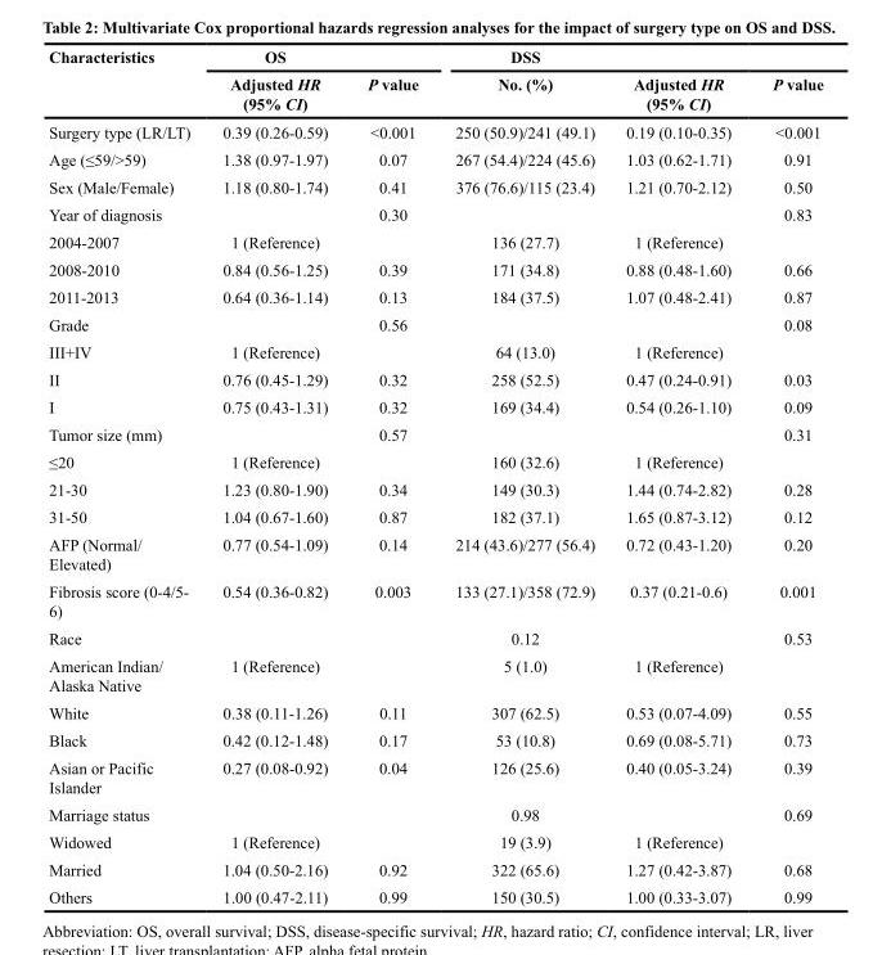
<table><thead><tr><td rowspan="2">Characteristics</td><td rowspan="2">OS Adjusted HR (95% CI)</td><td rowspan="2">P value</td><td rowspan="2">DSS No. (%)</td><td rowspan="2">Adjusted HR (95% CI)</td><td rowspan="2">P value</td></tr><tr></tr></thead><tbody><tr><td>Surgery type (LR/LT)</td><td>0.39 (0.26-0.59)</td><td>&lt;0.001</td><td>250 (50.9)/241 (49.1)</td><td>0.19 (0.10-0.35)</td><td>&lt;0.001</td></tr><tr><td>Age (≤59/&gt;59)</td><td>1.38 (0.97-1.97)</td><td>0.07</td><td>267 (54.4)/224 (45.6)</td><td>1.03 (0.62-1.71)</td><td>0.91</td></tr><tr><td>Sex (Male/Female)</td><td>1.18 (0.80-1.74)</td><td>0.41</td><td>376 (76.6)/115 (23.4)</td><td>1.21 (0.70-2.12)</td><td>0.50</td></tr><tr><td>Year of diagnosis</td><td></td><td>0.30</td><td></td><td></td><td>0.83</td></tr><tr><td>2004-2007</td><td>1 (Reference)</td><td></td><td>136 (27.7)</td><td>1 (Reference)</td><td></td></tr><tr><td>2008-2010</td><td>0.84 (0.56-1.25)</td><td>0.39</td><td>171 (34.8)</td><td>0.88 (0.48-1.60)</td><td>0.66</td></tr><tr><td>2011-2013</td><td>0.64 (0.36-1.14)</td><td>0.13</td><td>184 (37.5)</td><td>1.07 (0.48-2.41)</td><td>0.87</td></tr><tr><td>Grade</td><td></td><td>0.56</td><td></td><td></td><td>0.08</td></tr><tr><td>III+IV</td><td>1 (Reference)</td><td></td><td>64 (13.0)</td><td>1 (Reference)</td><td></td></tr><tr><td>II</td><td>0.76 (0.45-1.29)</td><td>0.32</td><td>258 (52.5)</td><td>0.47 (0.24-0.91)</td><td>0.03</td></tr><tr><td>I</td><td>0.75 (0.43-1.31)</td><td>0.32</td><td>169 (34.4)</td><td>0.54 (0.26-1.10)</td><td>0.09</td></tr><tr><td>Tumor size (mm)</td><td></td><td>0.57</td><td></td><td></td><td>0.31</td></tr><tr><td>≤20</td><td>1 (Reference)</td><td></td><td>160 (32.6)</td><td>1 (Reference)</td><td></td></tr><tr><td>21-30</td><td>1.23 (0.80-1.90)</td><td>0.34</td><td>149 (30.3)</td><td>1.44 (0.74-2.82)</td><td>0.28</td></tr><tr><td>31-50</td><td>1.04 (0.67-1.60)</td><td>0.87</td><td>182 (37.1)</td><td>1.65 (0.87-3.12)</td><td>0.12</td></tr><tr><td>AFP (Normal/ Elevated)</td><td>0.77 (0.54-1.09)</td><td>0.14</td><td>214 (43.6)/277 (56.4)</td><td>0.72 (0.43-1.20)</td><td>0.20</td></tr><tr><td>Fibrosis score (0-4/5- 6)</td><td>0.54 (0.36-0.82)</td><td>0.003</td><td>133 (27.1)/358 (72.9)</td><td>0.37 (0.21-0.6)</td><td>0.001</td></tr><tr><td>Race</td><td></td><td></td><td>0.12</td><td></td><td>0.53</td></tr><tr><td>American Indian/ Alaska Native</td><td>1 (Reference)</td><td></td><td>5 (1.0)</td><td>1 (Reference)</td><td></td></tr><tr><td>White</td><td>0.38 (0.11-1.26)</td><td>0.11</td><td>307 (62.5)</td><td>0.53 (0.07-4.09)</td><td>0.55</td></tr><tr><td>Black</td><td>0.42 (0.12-1.48)</td><td>0.17</td><td>53 (10.8)</td><td>0.69 (0.08-5.71)</td><td>0.73</td></tr><tr><td>Asian or Pacific Islander</td><td>0.27 (0.08-0.92)</td><td>0.04</td><td>126 (25.6)</td><td>0.40 (0.05-3.24)</td><td>0.39</td></tr><tr><td>Marriage status</td><td></td><td></td><td>0.98</td><td></td><td>0.69</td></tr><tr><td>Widowed</td><td>1 (Reference)</td><td></td><td>19 (3.9)</td><td>1 (Reference)</td><td></td></tr><tr><td>Married</td><td>1.04 (0.50-2.16)</td><td>0.92</td><td>322 (65.6)</td><td>1.27 (0.42-3.87)</td><td>0.68</td></tr><tr><td>Others</td><td>1.00 (0.47-2.11)</td><td>0.99</td><td>150 (30.5)</td><td>1.00 (0.33-3.07)</td><td>0.99</td></tr></tbody></table>